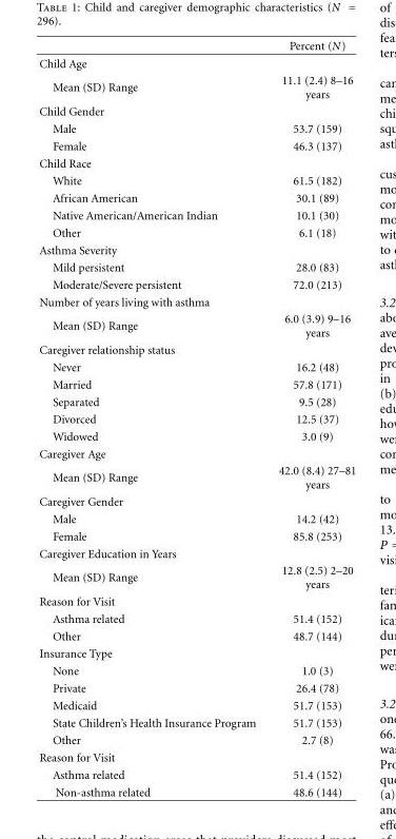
<table><thead><tr><td></td><td>Percent (N)</td></tr></thead><tbody><tr><td colspan="2">Child Age</td></tr><tr><td>Mean (SD) Range</td><td>11.1 (2.4) 8–16 years</td></tr><tr><td colspan="2">Child Gender</td></tr><tr><td>Male</td><td>53.7 (159)</td></tr><tr><td>Female</td><td>46.3 (137)</td></tr><tr><td colspan="2">Child Race</td></tr><tr><td>White</td><td>61.5 (182)</td></tr><tr><td>African American</td><td>30.1 (89)</td></tr><tr><td>Native American/American Indian</td><td>10.1 (30)</td></tr><tr><td>Other</td><td>6.1 (18)</td></tr><tr><td colspan="2">Asthma Severity</td></tr><tr><td>Mild persistent</td><td>28.0 (83)</td></tr><tr><td>Moderate/Severe persistent</td><td>72.0 (213)</td></tr><tr><td colspan="2">Number of years living with asthma</td></tr><tr><td>Mean (SD) Range</td><td>6.0 (3.9) 9–16 years</td></tr><tr><td colspan="2">Caregiver relationship status</td></tr><tr><td>Never</td><td>16.2 (48)</td></tr><tr><td>Married</td><td>57.8 (171)</td></tr><tr><td>Separated</td><td>9.5 (28)</td></tr><tr><td>Divorced</td><td>12.5 (37)</td></tr><tr><td>Widowed</td><td>3.0 (9)</td></tr><tr><td colspan="2">Caregiver Age</td></tr><tr><td>Mean (SD) Range</td><td>42.0 (8.4) 27–81 years</td></tr><tr><td colspan="2">Caregiver Gender</td></tr><tr><td>Male</td><td>14.2 (42)</td></tr><tr><td>Female</td><td>85.8 (253)</td></tr><tr><td colspan="2">Caregiver Education in Years</td></tr><tr><td>Mean (SD) Range</td><td>12.8 (2.5) 2–20 years</td></tr><tr><td colspan="2">Reason for Visit</td></tr><tr><td>Asthma related</td><td>51.4 (152)</td></tr><tr><td>Other</td><td>48.7 (144)</td></tr><tr><td colspan="2">Insurance Type</td></tr><tr><td>None</td><td>1.0 (3)</td></tr><tr><td>Private</td><td>26.4 (78)</td></tr><tr><td>Medicaid</td><td>51.7 (153)</td></tr><tr><td>State Children’s Health Insurance Program</td><td>51.7 (153)</td></tr><tr><td>Other</td><td>2.7 (8)</td></tr><tr><td colspan="2">Reason for Visit</td></tr><tr><td>Asthma related</td><td>51.4 (152)</td></tr><tr><td>Non-asthma related</td><td>48.6 (144)</td></tr></tbody></table>